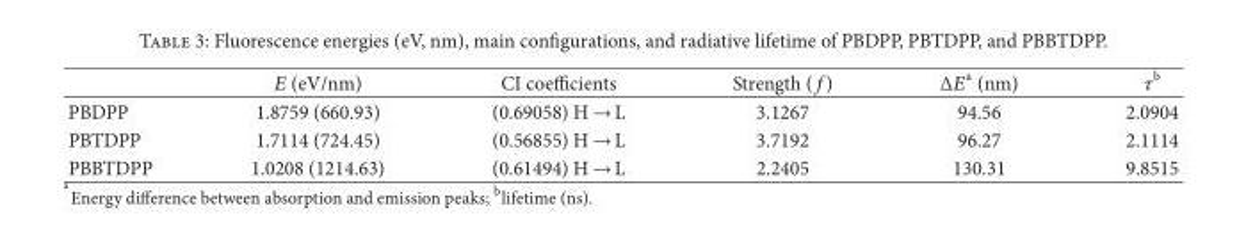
<table><thead><tr><td></td><td>𝐸𝐸 (eV/nm)</td><td>CI coefficients</td><td>Strength (𝑓𝑓)</td><td>Δ𝐸𝐸a (nm)</td><td>𝜏𝜏b</td></tr></thead><tbody><tr><td>PBDPP</td><td>1.8759 (660.93)</td><td>(0.69058) H → L</td><td>3.1267</td><td>94.56</td><td>2.0904</td></tr><tr><td>PBTDPP</td><td>1.7114 (724.45)</td><td>(0.56855) H → L</td><td>3.7192</td><td>96.27</td><td>2.1114</td></tr><tr><td>PBBTDPP</td><td>1.0208 (1214.63)</td><td>(0.61494) H → L</td><td>2.2405</td><td>130.31</td><td>9.8515</td></tr></tbody></table>